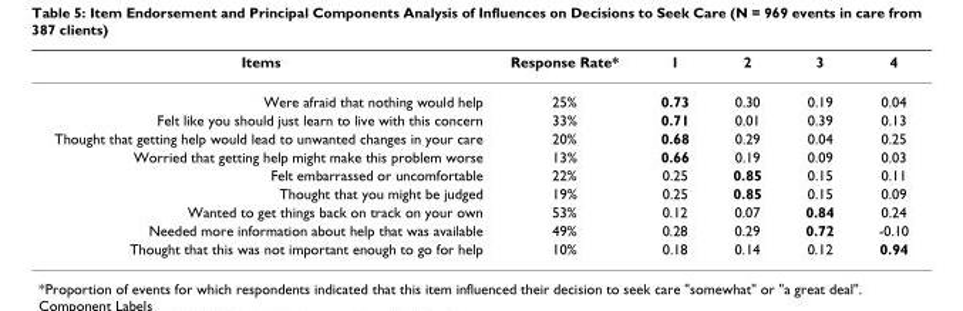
<table><thead><tr><td>Items</td><td>Response Rate*</td><td>1</td><td>2</td><td>3</td><td>4</td></tr></thead><tbody><tr><td>Were afraid that nothing would help</td><td>25%</td><td>0.73</td><td>0.30</td><td>0.19</td><td>0.04</td></tr><tr><td>Felt like you should just learn to live with this concern</td><td>33%</td><td>0.71</td><td>0.01</td><td>0.39</td><td>0.13</td></tr><tr><td>Thought that getting help would lead to unwanted changes in your care</td><td>20%</td><td>0.68</td><td>0.29</td><td>0.04</td><td>0.25</td></tr><tr><td>Worried that getting help might make this problem worse</td><td>13%</td><td>0.66</td><td>0.19</td><td>0.09</td><td>0.03</td></tr><tr><td>Felt embarrassed or uncomfortable</td><td>22%</td><td>0.25</td><td>0.85</td><td>0.15</td><td>0.11</td></tr><tr><td>Thought that you might be judged</td><td>19%</td><td>0.25</td><td>0.85</td><td>0.15</td><td>0.09</td></tr><tr><td>Wanted to get things back on track on your own</td><td>53%</td><td>0.12</td><td>0.07</td><td>0.84</td><td>0.24</td></tr><tr><td>Needed more information about help that was available</td><td>49%</td><td>0.28</td><td>0.29</td><td>0.72</td><td>-0.10</td></tr><tr><td>Thought that this was not important enough to go for help</td><td>10%</td><td>0.18</td><td>0.14</td><td>0.12</td><td>0.94</td></tr></tbody></table>